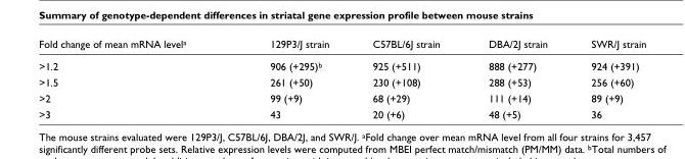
<table><thead><tr><td>Fold change of mean mRNA level<sup>a</sup></td><td>129P3/J strain</td><td>C57BL/6J strain</td><td>DBA/2J strain</td><td>SWR/J strain</td></tr></thead><tbody><tr><td>&gt;1.2</td><td>906 (+295)<sup>b</sup></td><td>925 (+511)</td><td>888 (+277)</td><td>924 (+391)</td></tr><tr><td>&gt;1.5</td><td>261 (+50)</td><td>230 (+108)</td><td>288 (+53)</td><td>256 (+60)</td></tr><tr><td>&gt;2</td><td>99 (+9)</td><td>68 (+29)</td><td>111 (+14)</td><td>89 (+9)</td></tr><tr><td>&gt;3</td><td>43</td><td>20 (+6)</td><td>48 (+5)</td><td>36</td></tr></tbody></table>